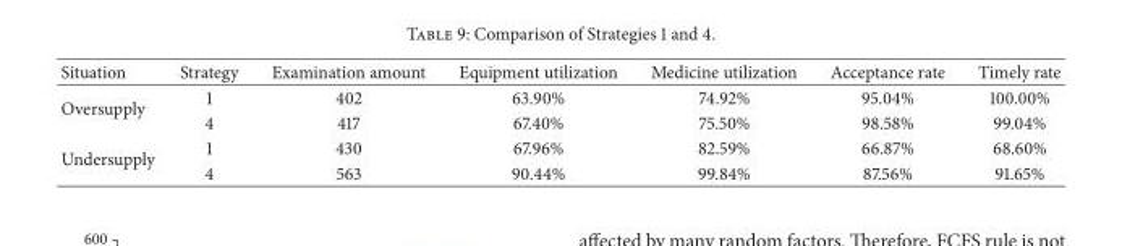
<table><thead><tr><td>Situation</td><td>Strategy</td><td>Examination amount</td><td>Equipment utilization</td><td>Medicine utilization</td><td>Acceptance rate</td><td>Timely rate</td></tr></thead><tbody><tr><td rowspan="2">Oversupply</td><td>1</td><td>402</td><td>63.90%</td><td>74.92%</td><td>95.04%</td><td>100.00%</td></tr><tr><td>4</td><td>417</td><td>67.40%</td><td>75.50%</td><td>98.58%</td><td>99.04%</td></tr><tr><td rowspan="2">Undersupply</td><td>1</td><td>430</td><td>67.96%</td><td>82.59%</td><td>66.87%</td><td>68.60%</td></tr><tr><td>4</td><td>563</td><td>90.44%</td><td>99.84%</td><td>87.56%</td><td>91.65%</td></tr></tbody></table>